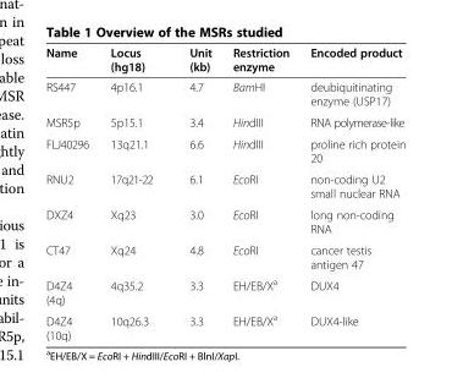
<table><thead><tr><td>Name</td><td>Locus (hg18)</td><td>Unit (kb)</td><td>Restriction enzyme</td><td>Encoded product</td></tr></thead><tbody><tr><td>RS447</td><td>4p16.1</td><td>4.7</td><td>BamHI</td><td>deubiquitinating enzyme (USP17)</td></tr><tr><td>MSR5p</td><td>5p15.1</td><td>3.4</td><td>HindIII</td><td>RNA polymerase-like</td></tr><tr><td>FLJ40296</td><td>13q21.1</td><td>6.6</td><td>HindIII</td><td>proline rich protein 20</td></tr><tr><td>RNU2</td><td>17q21-22</td><td>6.1</td><td>EcoRI</td><td>non-coding U2 small nuclear RNA</td></tr><tr><td>DXZ4</td><td>Xq23</td><td>3.0</td><td>EcoRI</td><td>long non-coding RNA</td></tr><tr><td>CT47</td><td>Xq24</td><td>4.8</td><td>EcoRI</td><td>cancer testis antigen 47</td></tr><tr><td>D4Z4 (4q)</td><td>4q35.2</td><td>3.3</td><td>EH/EB/X<sup>a</sup></td><td>DUX4</td></tr><tr><td>D4Z4 (10q)</td><td>10q26.3</td><td>3.3</td><td>EH/EB/X<sup>a</sup></td><td>DUX4-like</td></tr></tbody></table>